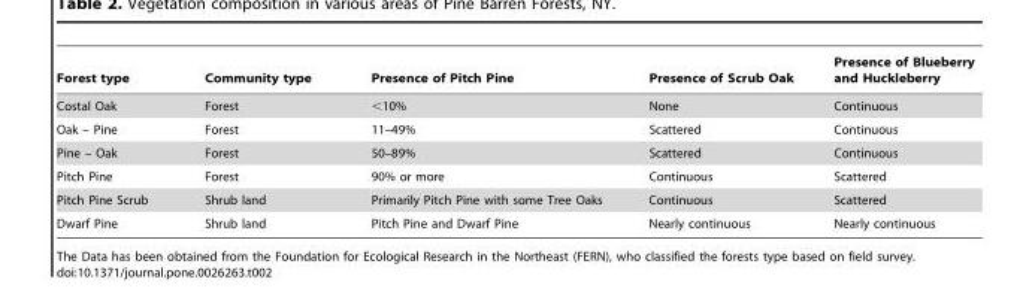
<table><thead><tr><td>Forest type</td><td>Community type</td><td>Presence of Pitch Pine</td><td>Presence of Scrub Oak</td><td>Presence of Blueberry and Huckleberry</td></tr></thead><tbody><tr><td>Costal Oak</td><td>Forest</td><td>&lt;10%</td><td>None</td><td>Continuous</td></tr><tr><td>Oak – Pine</td><td>Forest</td><td>11–49%</td><td>Scattered</td><td>Continuous</td></tr><tr><td>Pine – Oak</td><td>Forest</td><td>50–89%</td><td>Scattered</td><td>Continuous</td></tr><tr><td>Pitch Pine</td><td>Forest</td><td>90% or more</td><td>Continuous</td><td>Scattered</td></tr><tr><td>Pitch Pine Scrub</td><td>Shrub land</td><td>Primarily Pitch Pine with some Tree Oaks</td><td>Continuous</td><td>Scattered</td></tr><tr><td>Dwarf Pine</td><td>Shrub land</td><td>Pitch Pine and Dwarf Pine</td><td>Nearly continuous</td><td>Nearly continuous</td></tr></tbody></table>